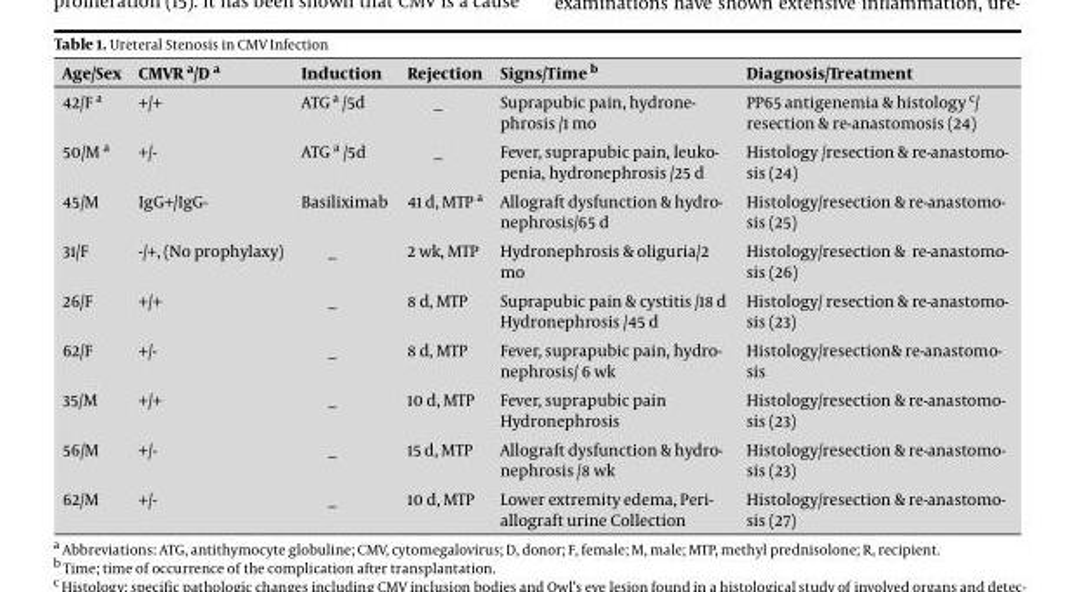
<table><thead><tr><td>Age/Sex</td><td>CMVR a/D a</td><td>Induction</td><td>Rejection</td><td>Signs/Time b</td><td>Diagnosis/Treatment</td></tr></thead><tbody><tr><td>42/F a</td><td>+/+</td><td>ATG a /5d</td><td>_</td><td>Suprapubic pain, hydrone- phrosis /1 mo</td><td>PP65 antigenemia &amp; histology c/ resection &amp; re-anastomosis (24)</td></tr><tr><td>50/M a</td><td>+/-</td><td>ATG a /5d</td><td>_</td><td>Fever, suprapubic pain, leuko- penia, hydronephrosis /25 d</td><td>Histology /resection &amp; re-anastomo- sis (24)</td></tr><tr><td>45/M</td><td>IgG+/IgG-</td><td>Basiliximab</td><td>41 d, MTP a</td><td>Allograft dysfunction &amp; hydro- nephrosis/65 d</td><td>Histology/resection &amp; re-anastomo- sis (25)</td></tr><tr><td>31/F</td><td>-/+, (No prophylaxy)</td><td>_</td><td>2 wk, MTP</td><td>Hydronephrosis &amp; oliguria/2 mo</td><td>Histology/resection &amp; re-anastomo- sis (26)</td></tr><tr><td>26/F</td><td>+/+</td><td>_</td><td>8 d, MTP</td><td>Suprapubic pain &amp; cystitis /18 d Hydronephrosis /45 d</td><td>Histology/ resection &amp; re-anastomo- sis (23)</td></tr><tr><td>62/F</td><td>+/-</td><td>_</td><td>8 d, MTP</td><td>Fever, suprapubic pain, hydro- nephrosis/ 6 wk</td><td>Histology/resection&amp; re-anastomo- sis</td></tr><tr><td>35/M</td><td>+/+</td><td>_</td><td>10 d, MTP</td><td>Fever, suprapubic pain Hydronephrosis</td><td>Histology/resection &amp; re-anastomo- sis (23)</td></tr><tr><td>56/M</td><td>+/-</td><td>_</td><td>15 d, MTP</td><td>Allograft dysfunction &amp; hydro- nephrosis /8 wk</td><td>Histology/resection &amp; re-anastomo- sis (23)</td></tr><tr><td>62/M</td><td>+/-</td><td>_</td><td>10 d, MTP</td><td>Lower extremity edema, Peri- allograft urine Collection</td><td>Histology/resection &amp; re-anastomo- sis (27)</td></tr></tbody></table>